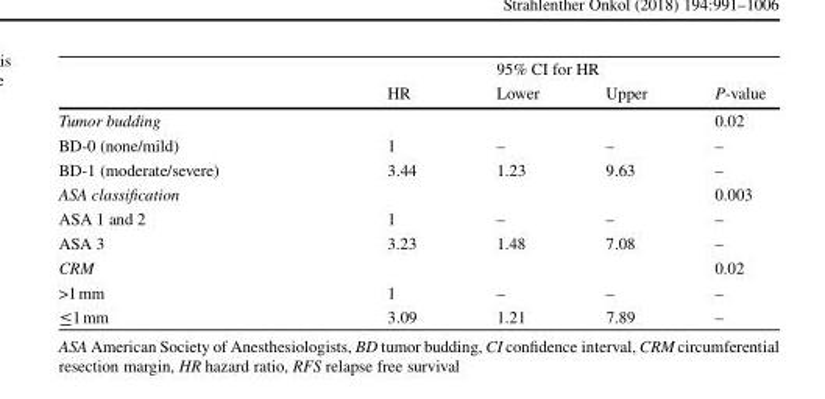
<table><thead><tr><td rowspan="2"></td><td rowspan="2">HR</td><td colspan="2">95% CI for HR</td><td rowspan="2">P-value</td></tr><tr><td>Lower</td><td>Upper</td></tr></thead><tbody><tr><td colspan="4">Tumor budding</td><td>0.02</td></tr><tr><td>BD-0 (none/mild)</td><td>1</td><td>–</td><td>–</td><td>–</td></tr><tr><td>BD-1 (moderate/severe)</td><td>3.44</td><td>1.23</td><td>9.63</td><td>–</td></tr><tr><td colspan="4">ASA classification</td><td>0.003</td></tr><tr><td>ASA 1 and 2</td><td>1</td><td>–</td><td>–</td><td>–</td></tr><tr><td>ASA 3</td><td>3.23</td><td>1.48</td><td>7.08</td><td>–</td></tr><tr><td colspan="4">CRM</td><td>0.02</td></tr><tr><td>&gt;1mm</td><td>1</td><td>–</td><td>–</td><td>–</td></tr><tr><td>≤1mm</td><td>3.09</td><td>1.21</td><td>7.89</td><td>–</td></tr></tbody></table>